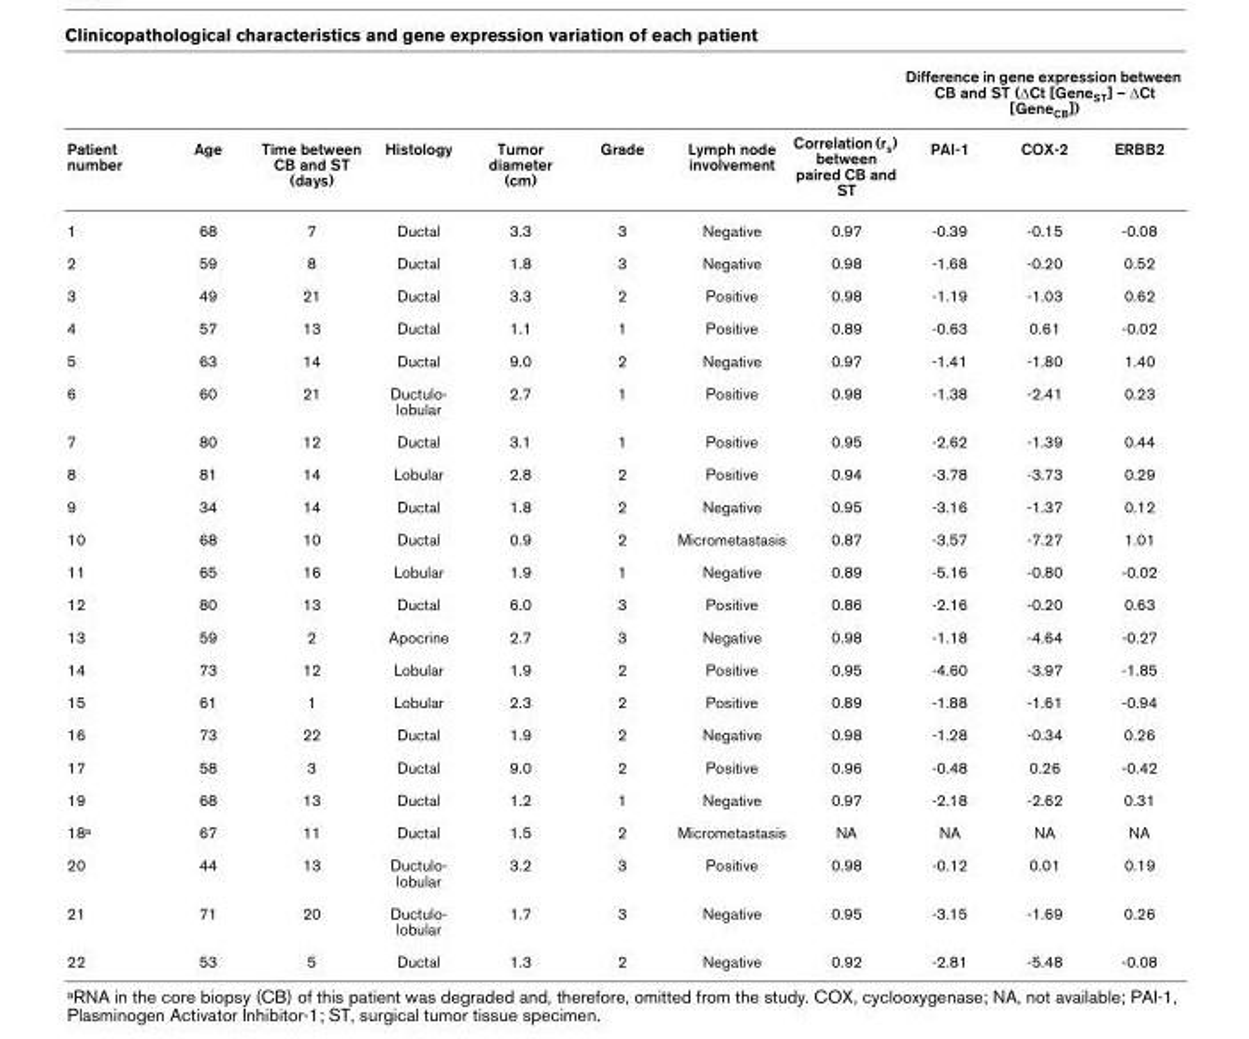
<table><thead><tr><td rowspan="2">Patient number</td><td rowspan="2">Age</td><td rowspan="2">Time between CB and ST (days)</td><td rowspan="2">Histology</td><td rowspan="2">Tumor diameter (cm)</td><td rowspan="2">Grade</td><td rowspan="2">Lymph node involvement</td><td rowspan="2">Correlation (rs) between paired CB and ST</td><td colspan="3">Difference in gene expression between CB and ST (∆Ct [GeneST] – ∆Ct [GeneCB])</td></tr><tr><td>PAI-1</td><td>COX-2</td><td>ERBB2</td></tr></thead><tbody><tr><td>1</td><td>68</td><td>7</td><td>Ductal</td><td>3.3</td><td>3</td><td>Negative</td><td>0.97</td><td>-0.39</td><td>-0.15</td><td>-0.08</td></tr><tr><td>2</td><td>59</td><td>8</td><td>Ductal</td><td>1.8</td><td>3</td><td>Negative</td><td>0.98</td><td>-1.68</td><td>-0.20</td><td>0.52</td></tr><tr><td>3</td><td>49</td><td>21</td><td>Ductal</td><td>3.3</td><td>2</td><td>Positive</td><td>0.98</td><td>-1.19</td><td>-1.03</td><td>0.62</td></tr><tr><td>4</td><td>57</td><td>13</td><td>Ductal</td><td>1.1</td><td>1</td><td>Positive</td><td>0.89</td><td>-0.63</td><td>0.61</td><td>-0.02</td></tr><tr><td>5</td><td>63</td><td>14</td><td>Ductal</td><td>9.0</td><td>2</td><td>Negative</td><td>0.97</td><td>-1.41</td><td>-1.80</td><td>1.40</td></tr><tr><td>6</td><td>60</td><td>21</td><td>Ductulo- lobular</td><td>2.7</td><td>1</td><td>Positive</td><td>0.98</td><td>-1.38</td><td>-2.41</td><td>0.23</td></tr><tr><td>7</td><td>80</td><td>12</td><td>Ductal</td><td>3.1</td><td>1</td><td>Positive</td><td>0.95</td><td>-2.62</td><td>-1.39</td><td>0.44</td></tr><tr><td>8</td><td>81</td><td>14</td><td>Lobular</td><td>2.8</td><td>2</td><td>Positive</td><td>0.94</td><td>-3.78</td><td>-3.73</td><td>0.29</td></tr><tr><td>9</td><td>34</td><td>14</td><td>Ductal</td><td>1.8</td><td>2</td><td>Negative</td><td>0.95</td><td>-3.16</td><td>-1.37</td><td>0.12</td></tr><tr><td>10</td><td>68</td><td>10</td><td>Ductal</td><td>0.9</td><td>2</td><td>Micrometastasis</td><td>0.87</td><td>-3.57</td><td>-7.27</td><td>1.01</td></tr><tr><td>11</td><td>65</td><td>16</td><td>Lobular</td><td>1.9</td><td>1</td><td>Negative</td><td>0.89</td><td>-5.16</td><td>-0.80</td><td>-0.02</td></tr><tr><td>12</td><td>80</td><td>13</td><td>Ductal</td><td>6.0</td><td>3</td><td>Positive</td><td>0.86</td><td>-2.16</td><td>-0.20</td><td>0.63</td></tr><tr><td>13</td><td>59</td><td>2</td><td>Apocrine</td><td>2.7</td><td>3</td><td>Negative</td><td>0.98</td><td>-1.18</td><td>-4.64</td><td>-0.27</td></tr><tr><td>14</td><td>73</td><td>12</td><td>Lobular</td><td>1.9</td><td>2</td><td>Positive</td><td>0.95</td><td>-4.60</td><td>-3.97</td><td>-1.85</td></tr><tr><td>15</td><td>61</td><td>1</td><td>Lobular</td><td>2.3</td><td>2</td><td>Positive</td><td>0.89</td><td>-1.88</td><td>-1.61</td><td>-0.94</td></tr><tr><td>16</td><td>73</td><td>22</td><td>Ductal</td><td>1.9</td><td>2</td><td>Negative</td><td>0.98</td><td>-1.28</td><td>-0.34</td><td>0.26</td></tr><tr><td>17</td><td>58</td><td>3</td><td>Ductal</td><td>9.0</td><td>2</td><td>Positive</td><td>0.96</td><td>-0.48</td><td>0.26</td><td>-0.42</td></tr><tr><td>19</td><td>68</td><td>13</td><td>Ductal</td><td>1.2</td><td>1</td><td>Negative</td><td>0.97</td><td>-2.18</td><td>-2.62</td><td>0.31</td></tr><tr><td>18a</td><td>67</td><td>11</td><td>Ductal</td><td>1.5</td><td>2</td><td>Micrometastasis</td><td>NA</td><td>NA</td><td>NA</td><td>NA</td></tr><tr><td>20</td><td>44</td><td>13</td><td>Ductulo- lobular</td><td>3.2</td><td>3</td><td>Positive</td><td>0.98</td><td>-0.12</td><td>0.01</td><td>0.19</td></tr><tr><td>21</td><td>71</td><td>20</td><td>Ductulo- lobular</td><td>1.7</td><td>3</td><td>Negative</td><td>0.95</td><td>-3.15</td><td>-1.69</td><td>0.26</td></tr><tr><td>22</td><td>53</td><td>5</td><td>Ductal</td><td>1.3</td><td>2</td><td>Negative</td><td>0.92</td><td>-2.81</td><td>-5.48</td><td>-0.08</td></tr></tbody></table>